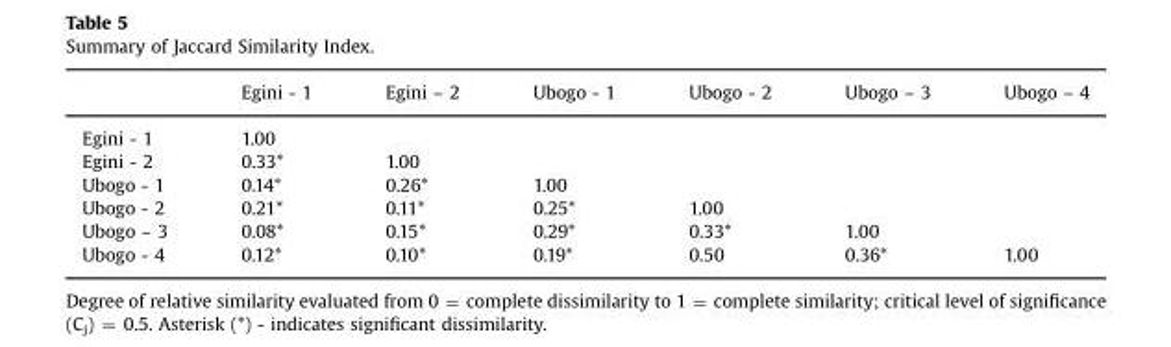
<table><thead><tr><td></td><td>Egini - 1</td><td>Egini – 2</td><td>Ubogo - 1</td><td>Ubogo - 2</td><td>Ubogo – 3</td><td>Ubogo – 4</td></tr></thead><tbody><tr><td>Egini - 1</td><td>1.00</td><td></td><td></td><td></td><td></td><td></td></tr><tr><td>Egini - 2</td><td>0.33*</td><td>1.00</td><td></td><td></td><td></td><td></td></tr><tr><td>Ubogo - 1</td><td>0.14*</td><td>0.26*</td><td>1.00</td><td></td><td></td><td></td></tr><tr><td>Ubogo - 2</td><td>0.21*</td><td>0.11*</td><td>0.25*</td><td>1.00</td><td></td><td></td></tr><tr><td>Ubogo – 3</td><td>0.08*</td><td>0.15*</td><td>0.29*</td><td>0.33*</td><td>1.00</td><td></td></tr><tr><td>Ubogo - 4</td><td>0.12*</td><td>0.10*</td><td>0.19*</td><td>0.50</td><td>0.36*</td><td>1.00</td></tr></tbody></table>